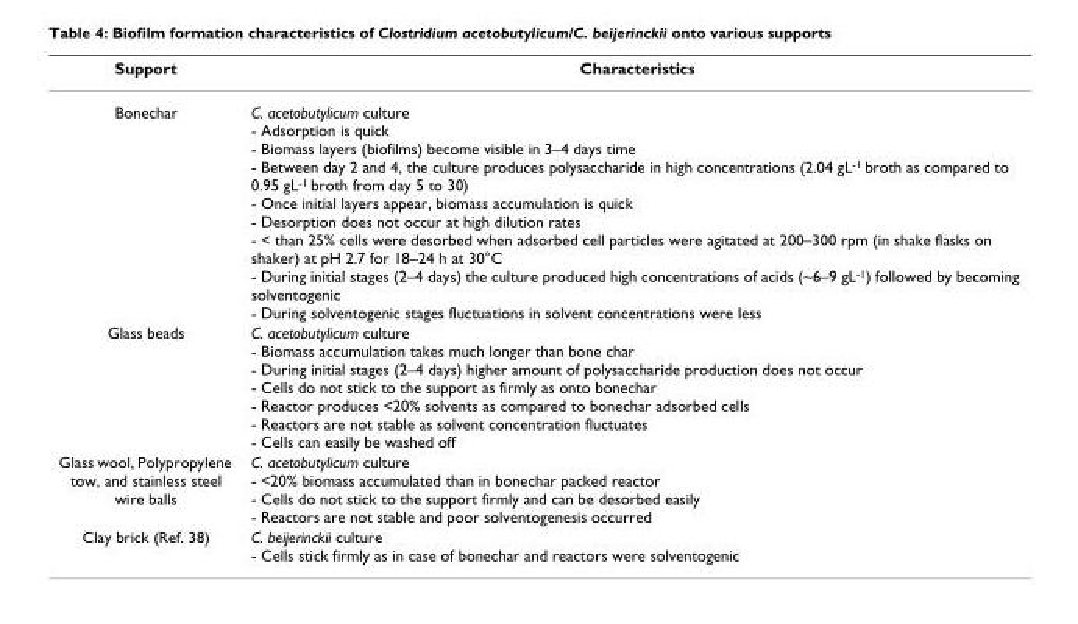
<table><thead><tr><td>Support</td><td>Characteristics</td></tr></thead><tbody><tr><td>Bonechar</td><td>C. acetobutylicum culture - Adsorption is quick - Biomass layers (biofilms) become visible in 3–4 days time - Between day 2 and 4, the culture produces polysaccharide in high concentrations (2.04 gL<sup>-1</sup> broth as compared to 0.95 gL<sup>-1</sup> broth from day 5 to 30) - Once initial layers appear, biomass accumulation is quick - Desorption does not occur at high dilution rates - &lt; than 25% cells were desorbed when adsorbed cell particles were agitated at 200–300 rpm (in shake flasks on shaker) at pH 2.7 for 18–24 h at 30°C - During initial stages (2–4 days) the culture produced high concentrations of acids (~6–9 gL<sup>-1</sup>) followed by becoming solventogenic - During solventogenic stages fluctuations in solvent concentrations were less</td></tr><tr><td>Glass beads</td><td>C. acetobutylicum culture - Biomass accumulation takes much longer than bone char - During initial stages (2–4 days) higher amount of polysaccharide production does not occur - Cells do not stick to the support as firmly as onto bonechar - Reactor produces &lt;20% solvents as compared to bonechar adsorbed cells - Reactors are not stable as solvent concentration fluctuates - Cells can easily be washed off</td></tr><tr><td>Glass wool, Polypropylene tow, and stainless steel wire balls</td><td>C. acetobutylicum culture - &lt;20% biomass accumulated than in bonechar packed reactor - Cells do not stick to the support firmly and can be desorbed easily - Reactors are not stable and poor solventogenesis occurred</td></tr><tr><td>Clay brick (Ref. 38)</td><td>C. beijerinckii culture - Cells stick firmly as in case of bonechar and reactors were solventogenic</td></tr></tbody></table>